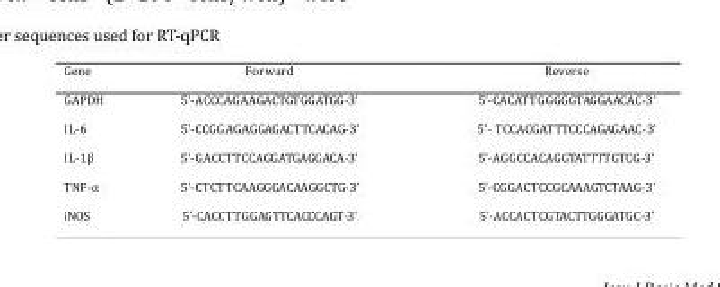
<table><thead><tr><td>Gene</td><td>Forward</td><td>Reverse</td></tr></thead><tbody><tr><td>GAPDH</td><td>5’-ACCCAGAAGACTGTGGATGG-3’</td><td>5’-CACATTGGGGGTAGGAACAC-3’</td></tr><tr><td>IL-6</td><td>5’-CCGGAGAGGAGACTTCACAG-3’</td><td>5&#x27;- TCCACGATTTCCCAGAGAAC-3’</td></tr><tr><td>IL-1β</td><td>5’-GACCTTCCAGGATGAGGACA-3’</td><td>5’-AGGCCACAGGTATTTTGTCG-3’</td></tr><tr><td>TNF-α</td><td>5’-CTCTTCAAGGGACAAGGCTG-3’</td><td>5’-CGGACTCCGCAAAGTCTAAG-3’</td></tr><tr><td>iNOS</td><td>5’-CACCTTGGAGTTCACCCAGT-3’</td><td>5’-ACCACTCGTACTTGGGATGC-3’</td></tr></tbody></table>